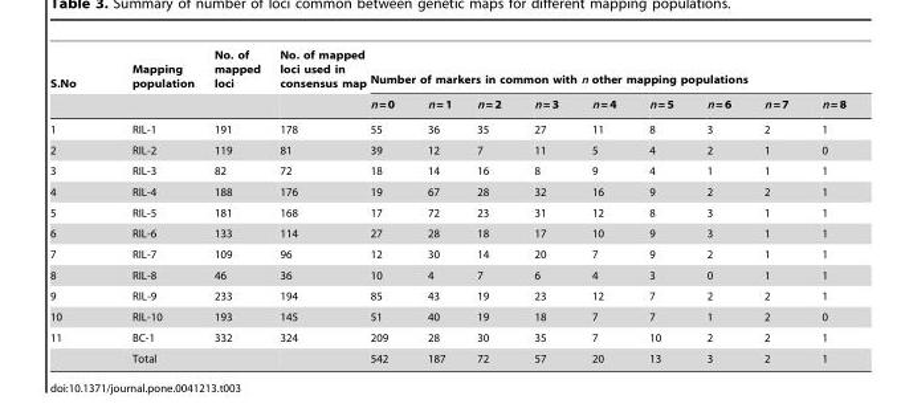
<table><thead><tr><td rowspan="2">S.No</td><td rowspan="2">Mapping population</td><td rowspan="2">No. of mapped loci</td><td rowspan="2">No. of mapped loci used in consensus map</td><td colspan="9">Number of markers in common with n other mapping populations</td></tr><tr><td>n = 0</td><td>n = 1</td><td>n = 2</td><td>n = 3</td><td>n = 4</td><td>n = 5</td><td>n = 6</td><td>n = 7</td><td>n = 8</td></tr></thead><tbody><tr><td>1</td><td>RIL-1</td><td>191</td><td>178</td><td>55</td><td>36</td><td>35</td><td>27</td><td>11</td><td>8</td><td>3</td><td>2</td><td>1</td></tr><tr><td>2</td><td>RIL-2</td><td>119</td><td>81</td><td>39</td><td>12</td><td>7</td><td>11</td><td>5</td><td>4</td><td>2</td><td>1</td><td>0</td></tr><tr><td>3</td><td>RIL-3</td><td>82</td><td>72</td><td>18</td><td>14</td><td>16</td><td>8</td><td>9</td><td>4</td><td>1</td><td>1</td><td>1</td></tr><tr><td>4</td><td>RIL-4</td><td>188</td><td>176</td><td>19</td><td>67</td><td>28</td><td>32</td><td>16</td><td>9</td><td>2</td><td>2</td><td>1</td></tr><tr><td>5</td><td>RIL-5</td><td>181</td><td>168</td><td>17</td><td>72</td><td>23</td><td>31</td><td>12</td><td>8</td><td>3</td><td>1</td><td>1</td></tr><tr><td>6</td><td>RIL-6</td><td>133</td><td>114</td><td>27</td><td>28</td><td>18</td><td>17</td><td>10</td><td>9</td><td>3</td><td>1</td><td>1</td></tr><tr><td>7</td><td>RIL-7</td><td>109</td><td>96</td><td>12</td><td>30</td><td>14</td><td>20</td><td>7</td><td>9</td><td>2</td><td>1</td><td>1</td></tr><tr><td>8</td><td>RIL-8</td><td>46</td><td>36</td><td>10</td><td>4</td><td>7</td><td>6</td><td>4</td><td>3</td><td>0</td><td>1</td><td>1</td></tr><tr><td>9</td><td>RIL-9</td><td>233</td><td>194</td><td>85</td><td>43</td><td>19</td><td>23</td><td>12</td><td>7</td><td>2</td><td>2</td><td>1</td></tr><tr><td>10</td><td>RIL-10</td><td>193</td><td>145</td><td>51</td><td>40</td><td>19</td><td>18</td><td>7</td><td>7</td><td>1</td><td>2</td><td>0</td></tr><tr><td rowspan="2">11</td><td>BC-1</td><td>332</td><td>324</td><td>209</td><td>28</td><td>30</td><td>35</td><td>7</td><td>10</td><td>2</td><td>2</td><td>1</td></tr><tr><td>Total</td><td></td><td></td><td>542</td><td>187</td><td>72</td><td>57</td><td>20</td><td>13</td><td>3</td><td>2</td><td>1</td></tr></tbody></table>